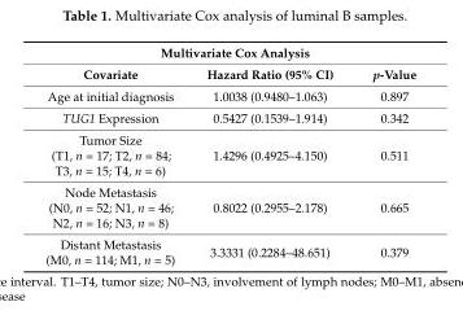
<table><thead><tr><td colspan="3">Multivariate Cox Analysis</td></tr><tr><td>Covariate</td><td>Hazard Ratio (95% CI)</td><td>p-Value</td></tr></thead><tbody><tr><td>Age at initial diagnosis</td><td>1.0038 (0.9480–1.063)</td><td>0.897</td></tr><tr><td>TUG1 Expression</td><td>0.5427 (0.1539–1.914)</td><td>0.342</td></tr><tr><td>Tumor Size (T1, n = 17; T2, n = 84; T3, n = 15; T4, n = 6)</td><td>1.4296 (0.4925–4.150)</td><td>0.511</td></tr><tr><td>Node Metastasis (N0, n = 52; N1, n = 46; N2, n = 16; N3, n = 8)</td><td>0.8022 (0.2955–2.178)</td><td>0.665</td></tr><tr><td>Distant Metastasis (M0, n = 114; M1, n = 5)</td><td>3.3331 (0.2284–48.651)</td><td>0.379</td></tr></tbody></table>